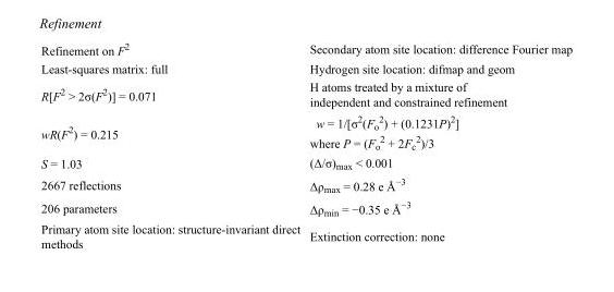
<table><tbody><tr><td>Refinement on F<sup>2</sup></td><td>Secondary atom site location: difference Fourier map</td></tr><tr><td>Least-squares matrix: full</td><td>Hydrogen site location: difmap and geom</td></tr><tr><td>R[F<sup>2</sup> &gt; 2σ(F<sup>2</sup>)] = 0.071</td><td>H atoms treated by a mixture of independent and constrained refinement</td></tr><tr><td>wR(F<sup>2</sup>) = 0.215</td><td>w = 1/[σ<sup>2</sup>(F<sub>o</sub> <sup>2</sup>) + (0.1231P)<sup>2</sup>] where P = (F<sub>o</sub> <sup>2</sup> + 2F<sub>c</sub> <sup>2</sup>)/3</td></tr><tr><td>S = 1.03</td><td>(Δ/σ)<sub>max</sub> &lt; 0.001</td></tr><tr><td>2667 reflections</td><td>Δρ<sub>max</sub> = 0.28 e Å<sup>−3</sup></td></tr><tr><td>206 parameters</td><td>Δρ<sub>min</sub> = −0.35 e Å<sup>−3</sup></td></tr><tr><td>Primary atom site location: structure-invariant direct methods</td><td>Extinction correction: none</td></tr></tbody></table>